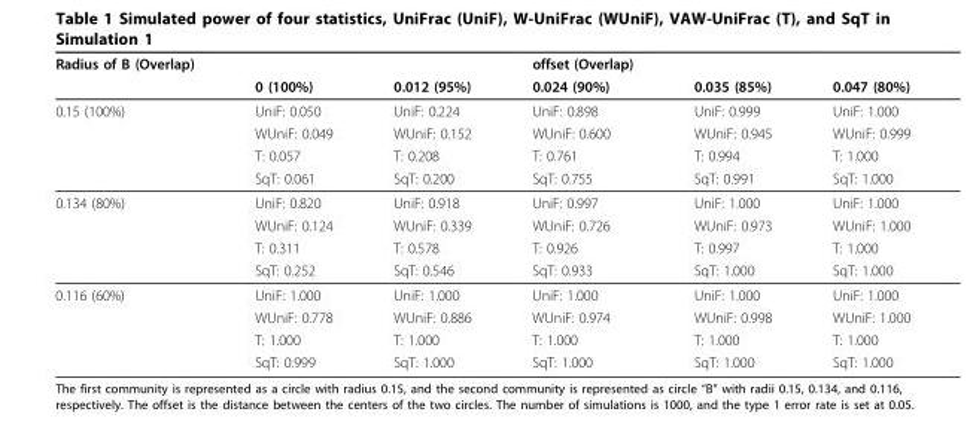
<table><thead><tr><td rowspan="2">Radius of B (Overlap)</td><td rowspan="2">0 (100%)</td><td rowspan="2">0.012 (95%)</td><td rowspan="2">offset (Overlap) 0.024 (90%)</td><td rowspan="2">0.035 (85%)</td><td rowspan="2">0.047 (80%)</td></tr><tr></tr></thead><tbody><tr><td rowspan="4">0.15 (100%)</td><td>UniF: 0.050</td><td>UniF: 0.224</td><td>UniF: 0.898</td><td>UniF: 0.999</td><td>UniF: 1.000</td></tr><tr><td>WUniF: 0.049</td><td>WUniF: 0.152</td><td>WUniF: 0.600</td><td>WUniF: 0.945</td><td>WUniF: 0.999</td></tr><tr><td>T: 0.057</td><td>T: 0.208</td><td>T: 0.761</td><td>T: 0.994</td><td>T: 1.000</td></tr><tr><td>SqT: 0.061</td><td>SqT: 0.200</td><td>SqT: 0.755</td><td>SqT: 0.991</td><td>SqT: 1.000</td></tr><tr><td rowspan="4">0.134 (80%)</td><td>UniF: 0.820</td><td>UniF: 0.918</td><td>UniF: 0.997</td><td>UniF: 1.000</td><td>UniF: 1.000</td></tr><tr><td>WUniF: 0.124</td><td>WUniF: 0.339</td><td>WUniF: 0.726</td><td>WUniF: 0.973</td><td>WUniF: 1.000</td></tr><tr><td>T: 0.311</td><td>T: 0.578</td><td>T: 0.926</td><td>T: 0.997</td><td>T: 1.000</td></tr><tr><td>SqT: 0.252</td><td>SqT: 0.546</td><td>SqT: 0.933</td><td>SqT: 1.000</td><td>SqT: 1.000</td></tr><tr><td rowspan="4">0.116 (60%)</td><td>UniF: 1.000</td><td>UniF: 1.000</td><td>UniF: 1.000</td><td>UniF: 1.000</td><td>UniF: 1.000</td></tr><tr><td>WUniF: 0.778</td><td>WUniF: 0.886</td><td>WUniF: 0.974</td><td>WUniF: 0.998</td><td>WUniF: 1.000</td></tr><tr><td>T: 1.000</td><td>T: 1.000</td><td>T: 1.000</td><td>T: 1.000</td><td>T: 1.000</td></tr><tr><td>SqT: 0.999</td><td>SqT: 1.000</td><td>SqT: 1.000</td><td>SqT: 1.000</td><td>SqT: 1.000</td></tr></tbody></table>